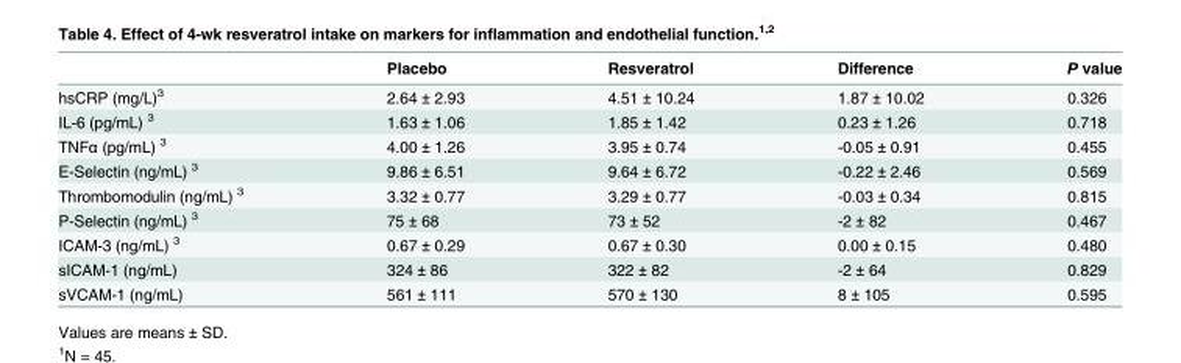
<table><thead><tr><td></td><td>Placebo</td><td>Resveratrol</td><td>Difference</td><td>P value</td></tr></thead><tbody><tr><td>hsCRP (mg/L)<sup>3</sup></td><td>2.64 ± 2.93</td><td>4.51 ± 10.24</td><td>1.87 ± 10.02</td><td>0.326</td></tr><tr><td>IL-6 (pg/mL) <sup>3</sup></td><td>1.63 ± 1.06</td><td>1.85 ± 1.42</td><td>0.23 ± 1.26</td><td>0.718</td></tr><tr><td>TNFα (pg/mL) <sup>3</sup></td><td>4.00 ± 1.26</td><td>3.95 ± 0.74</td><td>-0.05 ± 0.91</td><td>0.455</td></tr><tr><td>E-Selectin (ng/mL) <sup>3</sup></td><td>9.86 ± 6.51</td><td>9.64 ± 6.72</td><td>-0.22 ± 2.46</td><td>0.569</td></tr><tr><td>Thrombomodulin (ng/mL) <sup>3</sup></td><td>3.32 ± 0.77</td><td>3.29 ± 0.77</td><td>-0.03 ± 0.34</td><td>0.815</td></tr><tr><td>P-Selectin (ng/mL) <sup>3</sup></td><td>75 ± 68</td><td>73 ± 52</td><td>-2 ± 82</td><td>0.467</td></tr><tr><td>ICAM-3 (ng/mL) <sup>3</sup></td><td>0.67 ± 0.29</td><td>0.67 ± 0.30</td><td>0.00 ± 0.15</td><td>0.480</td></tr><tr><td>sICAM-1 (ng/mL)</td><td>324 ± 86</td><td>322 ± 82</td><td>-2 ± 64</td><td>0.829</td></tr><tr><td>sVCAM-1 (ng/mL)</td><td>561 ± 111</td><td>570 ± 130</td><td>8 ± 105</td><td>0.595</td></tr></tbody></table>